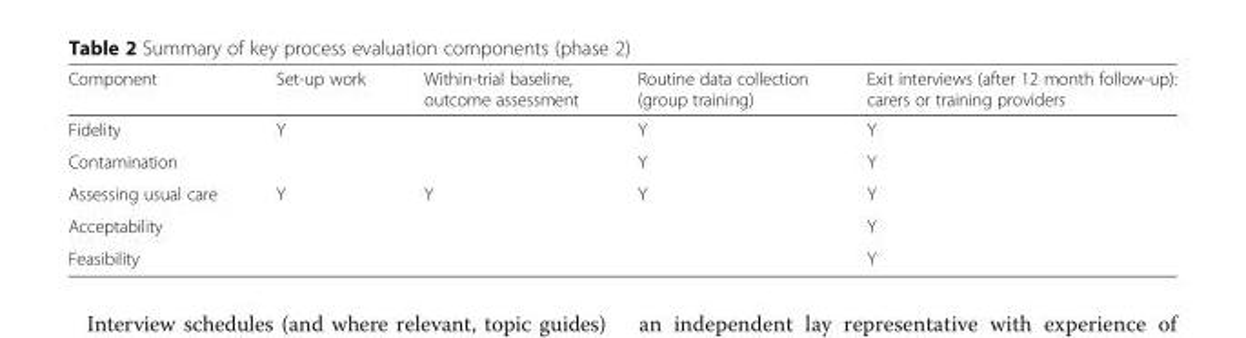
<table><thead><tr><td>Component</td><td>Set-up work</td><td>Within-trial baseline, outcome assessment</td><td>Routine data collection (group training)</td><td>Exit interviews (after 12 month follow-up): carers or training providers</td></tr></thead><tbody><tr><td>Fidelity</td><td>Y</td><td></td><td>Y</td><td>Y</td></tr><tr><td>Contamination</td><td></td><td></td><td>Y</td><td>Y</td></tr><tr><td>Assessing usual care</td><td>Y</td><td>Y</td><td>Y</td><td>Y</td></tr><tr><td>Acceptability</td><td></td><td></td><td></td><td>Y</td></tr><tr><td>Feasibility</td><td></td><td></td><td></td><td>Y</td></tr></tbody></table>